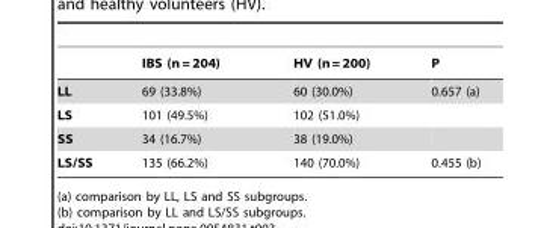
<table><thead><tr><td></td><td>IBS (n = 204)</td><td>HV (n = 200)</td><td>P</td></tr></thead><tbody><tr><td>LL</td><td>69 (33.8%)</td><td>60 (30.0%)</td><td>0.657 (a)</td></tr><tr><td>LS</td><td>101 (49.5%)</td><td>102 (51.0%)</td><td></td></tr><tr><td>SS</td><td>34 (16.7%)</td><td>38 (19.0%)</td><td></td></tr><tr><td>LS/SS</td><td>135 (66.2%)</td><td>140 (70.0%)</td><td>0.455 (b)</td></tr></tbody></table>